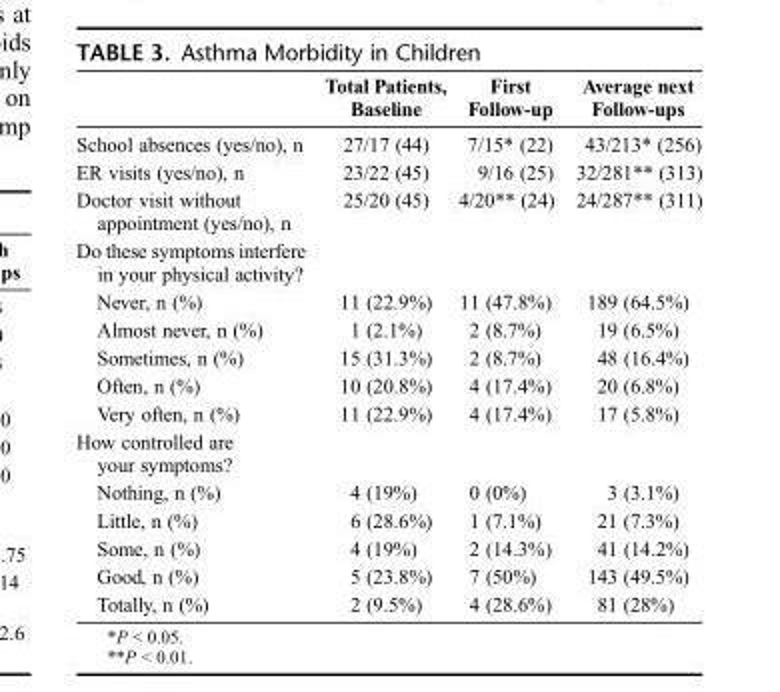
<table><thead><tr><td></td><td>Total Patients, Baseline</td><td>First Follow-up</td><td>Average next Follow-ups</td></tr></thead><tbody><tr><td>School absences (yes/no), n</td><td>27/17 (44)</td><td>7/15* (22)</td><td>43/213* (256)</td></tr><tr><td>ER visits (yes/no), n</td><td>23/22 (45)</td><td>9/16 (25)</td><td>32/281** (313)</td></tr><tr><td>Doctor visit without appointment (yes/no), n</td><td>25/20 (45)</td><td>4/20** (24)</td><td>24/287** (311)</td></tr><tr><td colspan="4">Do these symptoms interfere in your physical activity?</td></tr><tr><td>Never, n (%)</td><td>11 (22.9%)</td><td>11 (47.8%)</td><td>189 (64.5%)</td></tr><tr><td>Almost never, n (%)</td><td>1 (2.1%)</td><td>2 (8.7%)</td><td>19 (6.5%)</td></tr><tr><td>Sometimes, n (%)</td><td>15 (31.3%)</td><td>2 (8.7%)</td><td>48 (16.4%)</td></tr><tr><td>Often, n (%)</td><td>10 (20.8%)</td><td>4 (17.4%)</td><td>20 (6.8%)</td></tr><tr><td>Very often, n (%)</td><td>11 (22.9%)</td><td>4 (17.4%)</td><td>17 (5.8%)</td></tr><tr><td colspan="4">How controlled are your symptoms?</td></tr><tr><td>Nothing, n (%)</td><td>4 (19%)</td><td>0 (0%)</td><td>3 (3.1%)</td></tr><tr><td>Little, n (%)</td><td>6 (28.6%)</td><td>1 (7.1%)</td><td>21 (7.3%)</td></tr><tr><td>Some, n (%)</td><td>4 (19%)</td><td>2 (14.3%)</td><td>41 (14.2%)</td></tr><tr><td>Good, n (%)</td><td>5 (23.8%)</td><td>7 (50%)</td><td>143 (49.5%)</td></tr><tr><td>Totally, n (%)</td><td>2 (9.5%)</td><td>4 (28.6%)</td><td>81 (28%)</td></tr></tbody></table>